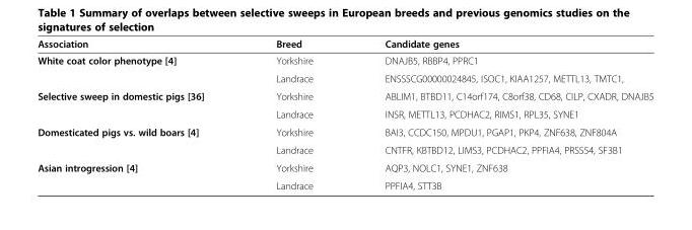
<table><thead><tr><td>Association</td><td>Breed</td><td>Candidate genes</td></tr></thead><tbody><tr><td rowspan="2">White coat color phenotype [4]</td><td>Yorkshire</td><td>DNAJB5, RBBP4, PPRC1</td></tr><tr><td>Landrace</td><td>ENSSSCG00000024845, ISOC1, KIAA1257, METTL13, TMTC1,</td></tr><tr><td rowspan="2">Selective sweep in domestic pigs [36]</td><td>Yorkshire</td><td>ABLIM1, BTBD11, C14orf174, C8orf38, CD68, CILP, CXADR, DNAJB5</td></tr><tr><td>Landrace</td><td>INSR, METTL13, PCDHAC2, RIMS1, RPL35, SYNE1</td></tr><tr><td rowspan="2">Domesticated pigs vs. wild boars [4]</td><td>Yorkshire</td><td>BAI3, CCDC150, MPDU1, PGAP1, PKP4, ZNF638, ZNF804A</td></tr><tr><td>Landrace</td><td>CNTFR, KBTBD12, LIMS3, PCDHAC2, PPFIA4, PRSS54, SF3B1</td></tr><tr><td rowspan="2">Asian introgression [4]</td><td>Yorkshire</td><td>AQP3, NOLC1, SYNE1, ZNF638</td></tr><tr><td>Landrace</td><td>PPFIA4, STT3B</td></tr></tbody></table>